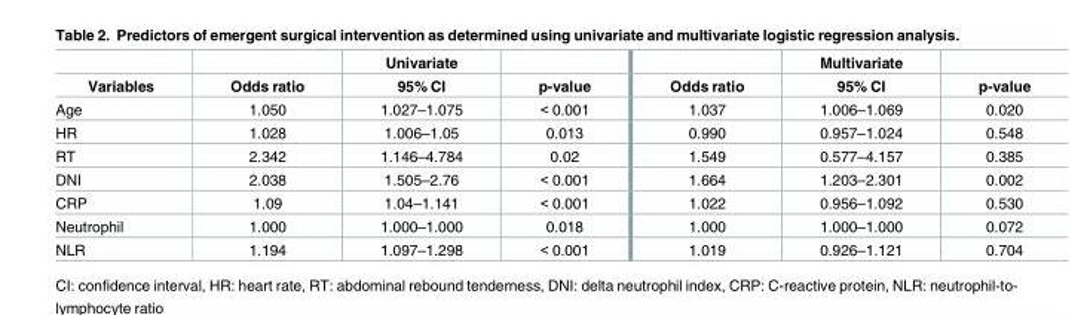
<table><thead><tr><td rowspan="2">Variables</td><td rowspan="2">Odds ratio</td><td rowspan="2">Univariate 95% CI</td><td rowspan="2">p-value</td><td rowspan="2">Odds ratio</td><td rowspan="2">Multivariate 95% CI</td><td rowspan="2">p-value</td></tr><tr></tr></thead><tbody><tr><td>Age</td><td>1.050</td><td>1.027–1.075</td><td>&lt; 0.001</td><td>1.037</td><td>1.006–1.069</td><td>0.020</td></tr><tr><td>HR</td><td>1.028</td><td>1.006–1.05</td><td>0.013</td><td>0.990</td><td>0.957–1.024</td><td>0.548</td></tr><tr><td>RT</td><td>2.342</td><td>1.146–4.784</td><td>0.02</td><td>1.549</td><td>0.577–4.157</td><td>0.385</td></tr><tr><td>DNI</td><td>2.038</td><td>1.505–2.76</td><td>&lt; 0.001</td><td>1.664</td><td>1.203–2.301</td><td>0.002</td></tr><tr><td>CRP</td><td>1.09</td><td>1.04–1.141</td><td>&lt; 0.001</td><td>1.022</td><td>0.956–1.092</td><td>0.530</td></tr><tr><td>Neutrophil</td><td>1.000</td><td>1.000–1.000</td><td>0.018</td><td>1.000</td><td>1.000–1.000</td><td>0.072</td></tr><tr><td>NLR</td><td>1.194</td><td>1.097–1.298</td><td>&lt; 0.001</td><td>1.019</td><td>0.926–1.121</td><td>0.704</td></tr></tbody></table>